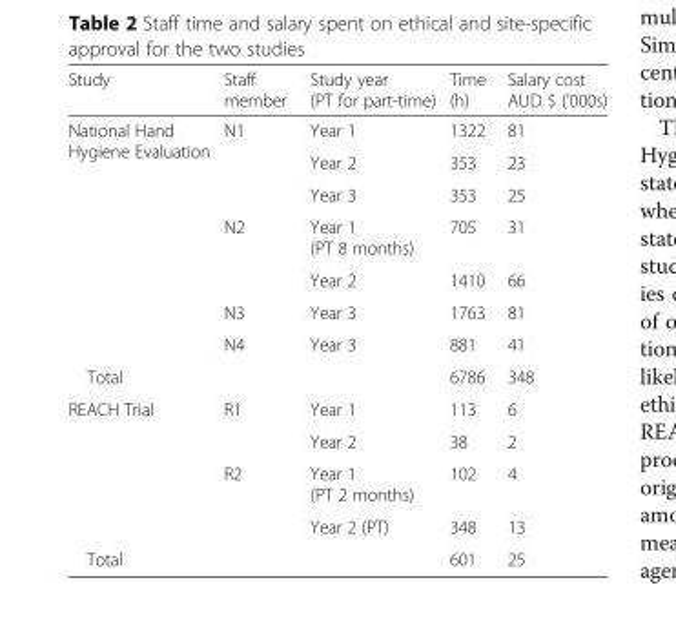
<table><thead><tr><td>Study</td><td>Staff member</td><td>Study year (PT for part-time)</td><td>Time (h)</td><td>Salary cost AUD $ (’000s)</td></tr></thead><tbody><tr><td rowspan="7">National Hand Hygiene Evaluation</td><td>N1</td><td>Year 1</td><td>1322</td><td>81</td></tr><tr><td></td><td>Year 2</td><td>353</td><td>23</td></tr><tr><td></td><td>Year 3</td><td>353</td><td>25</td></tr><tr><td>N2</td><td>Year 1 (PT 8 months)</td><td>705</td><td>31</td></tr><tr><td></td><td>Year 2</td><td>1410</td><td>66</td></tr><tr><td>N3</td><td>Year 3</td><td>1763</td><td>81</td></tr><tr><td>N4</td><td>Year 3</td><td>881</td><td>41</td></tr><tr><td>Total</td><td></td><td></td><td>6786</td><td>348</td></tr><tr><td rowspan="4">REACH Trial</td><td>R1</td><td>Year 1</td><td>113</td><td>6</td></tr><tr><td></td><td>Year 2</td><td>38</td><td>2</td></tr><tr><td>R2</td><td>Year 1 (PT 2 months)</td><td>102</td><td>4</td></tr><tr><td></td><td>Year 2 (PT)</td><td>348</td><td>13</td></tr><tr><td>Total</td><td></td><td></td><td>601</td><td>25</td></tr></tbody></table>